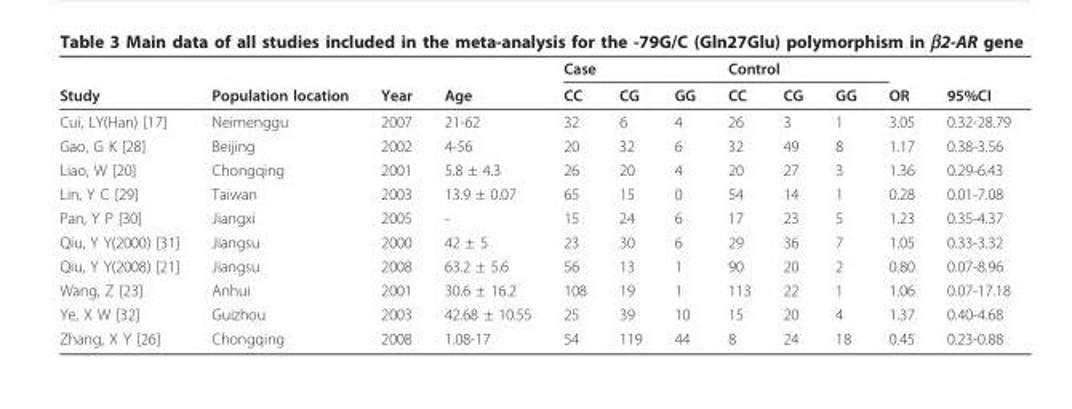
<table><thead><tr><td rowspan="2">Study</td><td rowspan="2">Population location</td><td rowspan="2">Year</td><td rowspan="2">Age</td><td colspan="3">Case</td><td colspan="3">Control</td><td rowspan="2">OR</td><td rowspan="2">95%CI</td></tr><tr><td>CC</td><td>CG</td><td>GG</td><td>CC</td><td>CG</td><td>GG</td></tr></thead><tbody><tr><td>Cui, LY(Han) [17]</td><td>Neimenggu</td><td>2007</td><td>21-62</td><td>32</td><td>6</td><td>4</td><td>26</td><td>3</td><td>1</td><td>3.05</td><td>0.32-28.79</td></tr><tr><td>Gao, G K [28]</td><td>Beijing</td><td>2002</td><td>4-56</td><td>20</td><td>32</td><td>6</td><td>32</td><td>49</td><td>8</td><td>1.17</td><td>0.38-3.56</td></tr><tr><td>Liao, W [20]</td><td>Chongqing</td><td>2001</td><td>5.8 ± 4.3</td><td>26</td><td>20</td><td>4</td><td>20</td><td>27</td><td>3</td><td>1.36</td><td>0.29-6.43</td></tr><tr><td>Lin, Y C [29]</td><td>Taiwan</td><td>2003</td><td>13.9 ± 0.07</td><td>65</td><td>15</td><td>0</td><td>54</td><td>14</td><td>1</td><td>0.28</td><td>0.01-7.08</td></tr><tr><td>Pan, Y P [30]</td><td>Jiangxi</td><td>2005</td><td>-</td><td>15</td><td>24</td><td>6</td><td>17</td><td>23</td><td>5</td><td>1.23</td><td>0.35-4.37</td></tr><tr><td>Qiu, Y Y(2000) [31]</td><td>Jiangsu</td><td>2000</td><td>42 ± 5</td><td>23</td><td>30</td><td>6</td><td>29</td><td>36</td><td>7</td><td>1.05</td><td>0.33-3.32</td></tr><tr><td>Qiu, Y Y(2008) [21]</td><td>Jiangsu</td><td>2008</td><td>63.2 ± 5.6</td><td>56</td><td>13</td><td>1</td><td>90</td><td>20</td><td>2</td><td>0.80</td><td>0.07-8.96</td></tr><tr><td>Wang, Z [23]</td><td>Anhui</td><td>2001</td><td>30.6 ± 16.2</td><td>108</td><td>19</td><td>1</td><td>113</td><td>22</td><td>1</td><td>1.06</td><td>0.07-17.18</td></tr><tr><td>Ye, X W [32]</td><td>Guizhou</td><td>2003</td><td>42.68 ± 10.55</td><td>25</td><td>39</td><td>10</td><td>15</td><td>20</td><td>4</td><td>1.37</td><td>0.40-4.68</td></tr><tr><td>Zhang, X Y [26]</td><td>Chongqing</td><td>2008</td><td>1.08-17</td><td>54</td><td>119</td><td>44</td><td>8</td><td>24</td><td>18</td><td>0.45</td><td>0.23-0.88</td></tr></tbody></table>